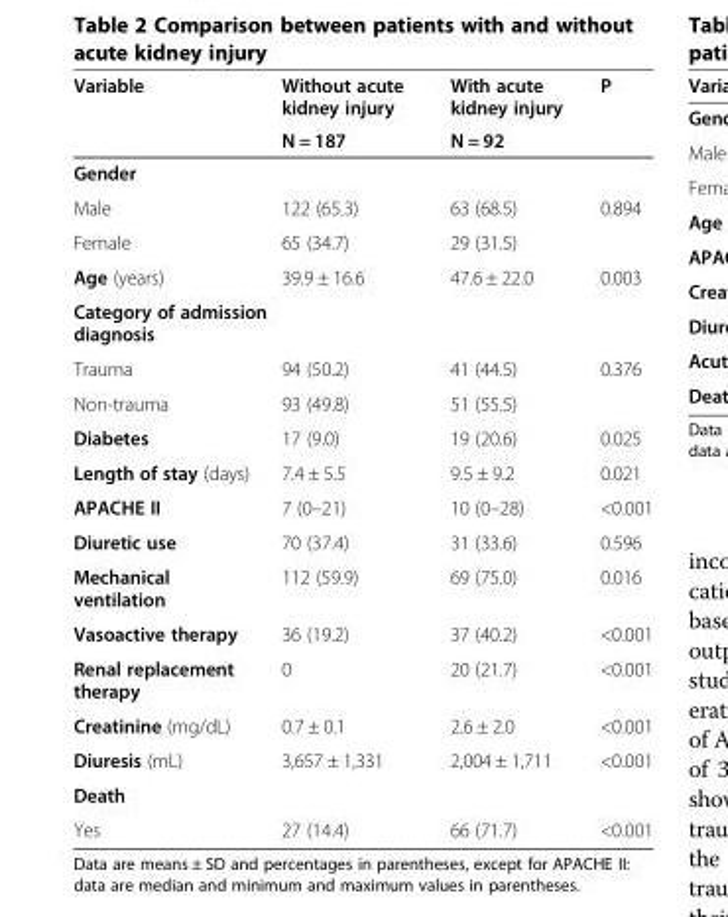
<table><thead><tr><td rowspan="2">Variable</td><td rowspan="2">Without acute kidney injury N = 187</td><td rowspan="2">With acute kidney injury N = 92</td><td rowspan="2">P</td></tr><tr></tr></thead><tbody><tr><td colspan="4">Gender</td></tr><tr><td>Male</td><td>122 (65.3)</td><td>63 (68.5)</td><td>0.894</td></tr><tr><td>Female</td><td>65 (34.7)</td><td>29 (31.5)</td><td></td></tr><tr><td>Age (years)</td><td>39.9 ± 16.6</td><td>47.6 ± 22.0</td><td>0.003</td></tr><tr><td colspan="4">Category of admission diagnosis</td></tr><tr><td>Trauma</td><td>94 (50.2)</td><td>41 (44.5)</td><td>0.376</td></tr><tr><td>Non-trauma</td><td>93 (49.8)</td><td>51 (55.5)</td><td></td></tr><tr><td>Diabetes</td><td>17 (9.0)</td><td>19 (20.6)</td><td>0.025</td></tr><tr><td>Length of stay (days)</td><td>7.4 ± 5.5</td><td>9.5 ± 9.2</td><td>0.021</td></tr><tr><td>APACHE II</td><td>7 (0–21)</td><td>10 (0–28)</td><td>&lt;0.001</td></tr><tr><td>Diuretic use</td><td>70 (37.4)</td><td>31 (33.6)</td><td>0.596</td></tr><tr><td>Mechanical ventilation</td><td>112 (59.9)</td><td>69 (75.0)</td><td>0.016</td></tr><tr><td>Vasoactive therapy</td><td>36 (19.2)</td><td>37 (40.2)</td><td>&lt;0.001</td></tr><tr><td>Renal replacement therapy</td><td>0</td><td>20 (21.7)</td><td>&lt;0.001</td></tr><tr><td>Creatinine (mg/dL)</td><td>0.7 ± 0.1</td><td>2.6 ± 2.0</td><td>&lt;0.001</td></tr><tr><td>Diuresis (mL)</td><td>3,657 ± 1,331</td><td>2,004 ± 1,711</td><td>&lt;0.001</td></tr><tr><td colspan="4">Death</td></tr><tr><td>Yes</td><td>27 (14.4)</td><td>66 (71.7)</td><td>&lt;0.001</td></tr></tbody></table>